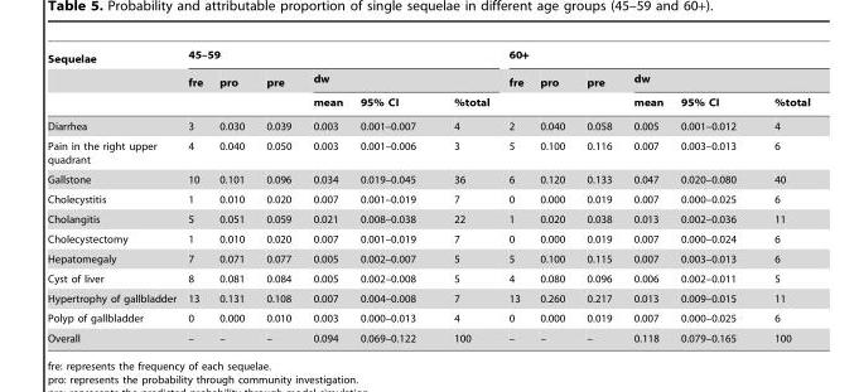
<table><thead><tr><td rowspan="3">Sequelae</td><td colspan="6">45–59</td><td colspan="6">60+</td></tr><tr><td rowspan="2">fre</td><td rowspan="2">pro</td><td rowspan="2">pre</td><td colspan="3">dw</td><td rowspan="2">fre</td><td rowspan="2">pro</td><td rowspan="2">pre</td><td colspan="3">dw</td></tr><tr><td>mean</td><td>95% CI</td><td>%total</td><td>mean</td><td>95% CI</td><td>%total</td></tr></thead><tbody><tr><td>Diarrhea</td><td>3</td><td>0.030</td><td>0.039</td><td>0.003</td><td>0.001–0.007</td><td>4</td><td>2</td><td>0.040</td><td>0.058</td><td>0.005</td><td>0.001–0.012</td><td>4</td></tr><tr><td>Pain in the right upper quadrant</td><td>4</td><td>0.040</td><td>0.050</td><td>0.003</td><td>0.001–0.006</td><td>3</td><td>5</td><td>0.100</td><td>0.116</td><td>0.007</td><td>0.003–0.013</td><td>6</td></tr><tr><td>Gallstone</td><td>10</td><td>0.101</td><td>0.096</td><td>0.034</td><td>0.019–0.045</td><td>36</td><td>6</td><td>0.120</td><td>0.133</td><td>0.047</td><td>0.020–0.080</td><td>40</td></tr><tr><td>Cholecystitis</td><td>1</td><td>0.010</td><td>0.020</td><td>0.007</td><td>0.001–0.019</td><td>7</td><td>0</td><td>0.000</td><td>0.019</td><td>0.007</td><td>0.000–0.025</td><td>6</td></tr><tr><td>Cholangitis</td><td>5</td><td>0.051</td><td>0.059</td><td>0.021</td><td>0.008–0.038</td><td>22</td><td>1</td><td>0.020</td><td>0.038</td><td>0.013</td><td>0.002–0.036</td><td>11</td></tr><tr><td>Cholecystectomy</td><td>1</td><td>0.010</td><td>0.020</td><td>0.007</td><td>0.001–0.019</td><td>7</td><td>0</td><td>0.000</td><td>0.019</td><td>0.007</td><td>0.000–0.024</td><td>6</td></tr><tr><td>Hepatomegaly</td><td>7</td><td>0.071</td><td>0.077</td><td>0.005</td><td>0.002–0.007</td><td>5</td><td>5</td><td>0.100</td><td>0.115</td><td>0.007</td><td>0.003–0.013</td><td>6</td></tr><tr><td>Cyst of liver</td><td>8</td><td>0.081</td><td>0.084</td><td>0.005</td><td>0.002–0.008</td><td>5</td><td>4</td><td>0.080</td><td>0.096</td><td>0.006</td><td>0.002–0.011</td><td>5</td></tr><tr><td>Hypertrophy of gallbladder</td><td>13</td><td>0.131</td><td>0.108</td><td>0.007</td><td>0.004–0.008</td><td>7</td><td>13</td><td>0.260</td><td>0.217</td><td>0.013</td><td>0.009–0.015</td><td>11</td></tr><tr><td>Polyp of gallbladder</td><td>0</td><td>0.000</td><td>0.010</td><td>0.003</td><td>0.000–0.013</td><td>4</td><td>0</td><td>0.000</td><td>0.019</td><td>0.007</td><td>0.000–0.025</td><td>6</td></tr><tr><td>Overall</td><td>–</td><td>–</td><td>–</td><td>0.094</td><td>0.069–0.122</td><td>100</td><td>–</td><td>–</td><td>–</td><td>0.118</td><td>0.079–0.165</td><td>100</td></tr></tbody></table>